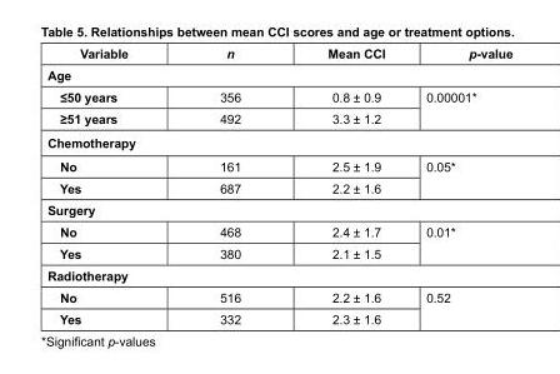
<table><thead><tr><td>Variable</td><td>n</td><td>Mean CCI</td><td>p-value</td></tr></thead><tbody><tr><td colspan="4">Age</td></tr><tr><td>≤50 years</td><td>356</td><td>0.8 ± 0.9</td><td rowspan="2">0.00001*</td></tr><tr><td>≥51 years</td><td>492</td><td>3.3 ± 1.2</td></tr><tr><td colspan="4">Chemotherapy</td></tr><tr><td>No</td><td>161</td><td>2.5 ± 1.9</td><td rowspan="2">0.05*</td></tr><tr><td>Yes</td><td>687</td><td>2.2 ± 1.6</td></tr><tr><td colspan="4">Surgery</td></tr><tr><td>No</td><td>468</td><td>2.4 ± 1.7</td><td rowspan="2">0.01*</td></tr><tr><td>Yes</td><td>380</td><td>2.1 ± 1.5</td></tr><tr><td colspan="4">Radiotherapy</td></tr><tr><td>No</td><td>516</td><td>2.2 ± 1.6</td><td rowspan="2">0.52</td></tr><tr><td>Yes</td><td>332</td><td>2.3 ± 1.6</td></tr></tbody></table>